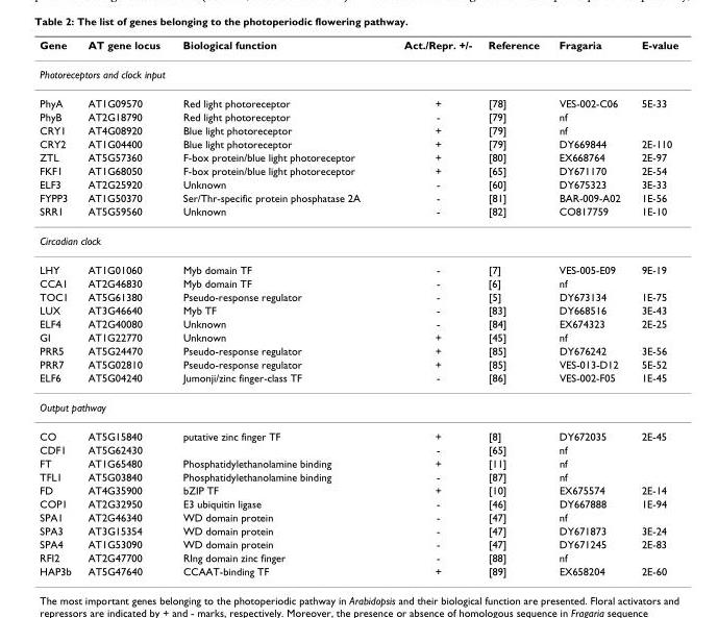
<table><thead><tr><td>Gene</td><td>AT gene locus</td><td>Biological function</td><td>Act./Repr. +/-</td><td>Reference</td><td>Fragaria</td><td>E-value</td></tr></thead><tbody><tr><td colspan="7">Photoreceptors and clock input</td></tr><tr><td>PhyA</td><td>AT1G09570</td><td>Red light photoreceptor</td><td>+</td><td>[78]</td><td>VES-002-C06</td><td>5E-33</td></tr><tr><td>PhyB</td><td>AT2G18790</td><td>Red light photoreceptor</td><td>-</td><td>[79]</td><td>nf</td><td></td></tr><tr><td>CRY1</td><td>AT4G08920</td><td>Blue light photoreceptor</td><td>+</td><td>[79]</td><td>nf</td><td></td></tr><tr><td>CRY2</td><td>AT1G04400</td><td>Blue light photoreceptor</td><td>+</td><td>[79]</td><td>DY669844</td><td>2E-110</td></tr><tr><td>ZTL</td><td>AT5G57360</td><td>F-box protein/blue light photoreceptor</td><td>+</td><td>[80]</td><td>EX668764</td><td>2E-97</td></tr><tr><td>FKF1</td><td>AT1G68050</td><td>F-box protein/blue light photoreceptor</td><td>+</td><td>[65]</td><td>DY671170</td><td>2E-54</td></tr><tr><td>ELF3</td><td>AT2G25920</td><td>Unknown</td><td>-</td><td>[60]</td><td>DY675323</td><td>3E-33</td></tr><tr><td>FYPP3</td><td>AT1G50370</td><td>Ser/Thr-specific protein phosphatase 2A</td><td>-</td><td>[81]</td><td>BAR-009-A02</td><td>1E-56</td></tr><tr><td>SRR1</td><td>AT5G59560</td><td>Unknown</td><td>-</td><td>[82]</td><td>CO817759</td><td>1E-10</td></tr><tr><td colspan="7">Circadian clock</td></tr><tr><td>LHY</td><td>AT1G01060</td><td>Myb domain TF</td><td>-</td><td>[7]</td><td>VES-005-E09</td><td>9E-19</td></tr><tr><td>CCA1</td><td>AT2G46830</td><td>Myb domain TF</td><td>-</td><td>[6]</td><td>nf</td><td></td></tr><tr><td>TOC1</td><td>AT5G61380</td><td>Pseudo-response regulator</td><td>-</td><td>[5]</td><td>DY673134</td><td>1E-75</td></tr><tr><td>LUX</td><td>AT3G46640</td><td>Myb TF</td><td>-</td><td>[83]</td><td>DY668516</td><td>3E-43</td></tr><tr><td>ELF4</td><td>AT2G40080</td><td>Unknown</td><td>-</td><td>[84]</td><td>EX674323</td><td>2E-25</td></tr><tr><td>GI</td><td>AT1G22770</td><td>Unknown</td><td>+</td><td>[45]</td><td>nf</td><td></td></tr><tr><td>PRR5</td><td>AT5G24470</td><td>Pseudo-response regulator</td><td>+</td><td>[85]</td><td>DY676242</td><td>3E-56</td></tr><tr><td>PRR7</td><td>AT5G02810</td><td>Pseudo-response regulator</td><td>+</td><td>[85]</td><td>VES-013-D12</td><td>5E-52</td></tr><tr><td>ELF6</td><td>AT5G04240</td><td>Jumonji/zinc finger-class TF</td><td>-</td><td>[86]</td><td>VES-002-F05</td><td>1E-45</td></tr><tr><td colspan="7">Output pathway</td></tr><tr><td>CO</td><td>AT5G15840</td><td>putative zinc finger TF</td><td>+</td><td>[8]</td><td>DY672035</td><td>2E-45</td></tr><tr><td>CDF1</td><td>AT5G62430</td><td></td><td>-</td><td>[65]</td><td>nf</td><td></td></tr><tr><td>FT</td><td>AT1G65480</td><td>Phosphatidylethanolamine binding</td><td>+</td><td>[11]</td><td>nf</td><td></td></tr><tr><td>TFL1</td><td>AT5G03840</td><td>Phosphatidylethanolamine binding</td><td>-</td><td>[87]</td><td>nf</td><td></td></tr><tr><td>FD</td><td>AT4G35900</td><td>bZIP TF</td><td>+</td><td>[10]</td><td>EX675574</td><td>2E-14</td></tr><tr><td>COP1</td><td>AT2G32950</td><td>E3 ubiquitin ligase</td><td>-</td><td>[46]</td><td>DY667888</td><td>1E-94</td></tr><tr><td>SPA1</td><td>AT2G46340</td><td>WD domain protein</td><td>-</td><td>[47]</td><td>nf</td><td></td></tr><tr><td>SPA3</td><td>AT3G15354</td><td>WD domain protein</td><td>-</td><td>[47]</td><td>DY671873</td><td>3E-24</td></tr><tr><td>SPA4</td><td>AT1G53090</td><td>WD domain protein</td><td>-</td><td>[47]</td><td>DY671245</td><td>2E-83</td></tr><tr><td>RFI2</td><td>AT2G47700</td><td>RIng domain zinc finger</td><td>-</td><td>[88]</td><td>nf</td><td></td></tr><tr><td>HAP3b</td><td>AT5G47640</td><td>CCAAT-binding TF</td><td>+</td><td>[89]</td><td>EX658204</td><td>2E-60</td></tr></tbody></table>